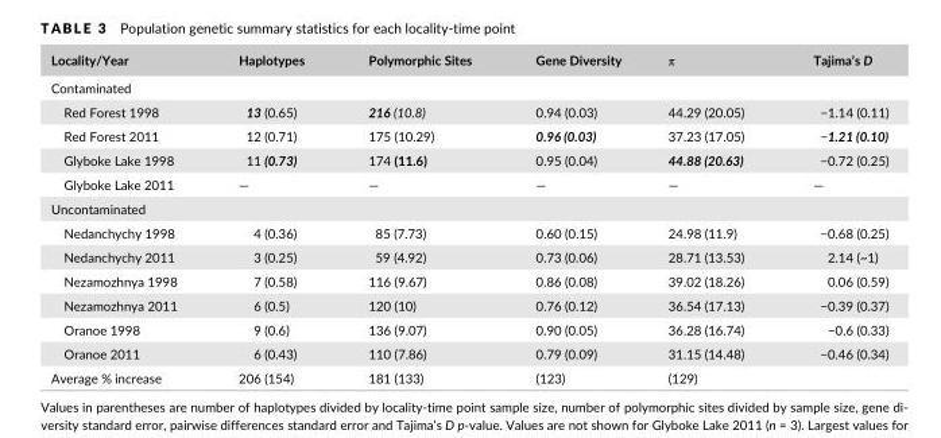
<table><thead><tr><td>Locality/Year</td><td>Haplotypes</td><td>Polymorphic Sites</td><td>Gene Diversity</td><td>π</td><td>Tajima’s D</td></tr></thead><tbody><tr><td colspan="6">Contaminated</td></tr><tr><td>Red Forest 1998</td><td>13 (0.65)</td><td>216 (10.8)</td><td>0.94 (0.03)</td><td>44.29 (20.05)</td><td>−1.14 (0.11)</td></tr><tr><td>Red Forest 2011</td><td>12 (0.71)</td><td>175 (10.29)</td><td>0.96 (0.03)</td><td>37.23 (17.05)</td><td>−1.21 (0.10)</td></tr><tr><td>Glyboke Lake 1998</td><td>11 (0.73)</td><td>174 (11.6)</td><td>0.95 (0.04)</td><td>44.88 (20.63)</td><td>−0.72 (0.25)</td></tr><tr><td>Glyboke Lake 2011</td><td>—</td><td>—</td><td>—</td><td>—</td><td>—</td></tr><tr><td colspan="6">Uncontaminated</td></tr><tr><td>Nedanchychy 1998</td><td>4 (0.36)</td><td>85 (7.73)</td><td>0.60 (0.15)</td><td>24.98 (11.9)</td><td>−0.68 (0.25)</td></tr><tr><td>Nedanchychy 2011</td><td>3 (0.25)</td><td>59 (4.92)</td><td>0.73 (0.06)</td><td>28.71 (13.53)</td><td>2.14 (~1)</td></tr><tr><td>Nezamozhnya 1998</td><td>7 (0.58)</td><td>116 (9.67)</td><td>0.86 (0.08)</td><td>39.02 (18.26)</td><td>0.06 (0.59)</td></tr><tr><td>Nezamozhnya 2011</td><td>6 (0.5)</td><td>120 (10)</td><td>0.76 (0.12)</td><td>36.54 (17.13)</td><td>−0.39 (0.37)</td></tr><tr><td>Oranoe 1998</td><td>9 (0.6)</td><td>136 (9.07)</td><td>0.90 (0.05)</td><td>36.28 (16.74)</td><td>−0.6 (0.33)</td></tr><tr><td>Oranoe 2011</td><td>6 (0.43)</td><td>110 (7.86)</td><td>0.79 (0.09)</td><td>31.15 (14.48)</td><td>−0.46 (0.34)</td></tr><tr><td>Average % increase</td><td>206 (154)</td><td>181 (133)</td><td>(123)</td><td>(129)</td><td></td></tr></tbody></table>